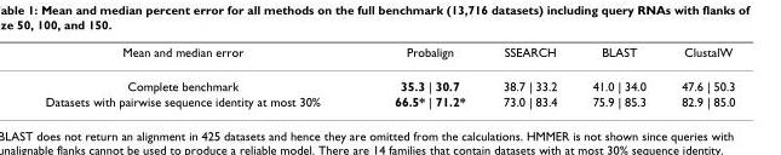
<table><thead><tr><td>Mean and median error</td><td>Probalign</td><td>SSEARCH</td><td>BLAST</td><td>ClustalW</td></tr></thead><tbody><tr><td>Complete benchmark</td><td>35.3 | 30.7</td><td>38.7 | 33.2</td><td>41.0 | 34.0</td><td>47.6 | 50.3</td></tr><tr><td>Datasets with pairwise sequence identity at most 30%</td><td>66.5* | 71.2*</td><td>73.0 | 83.4</td><td>75.9 | 85.3</td><td>82.9 | 85.0</td></tr></tbody></table>